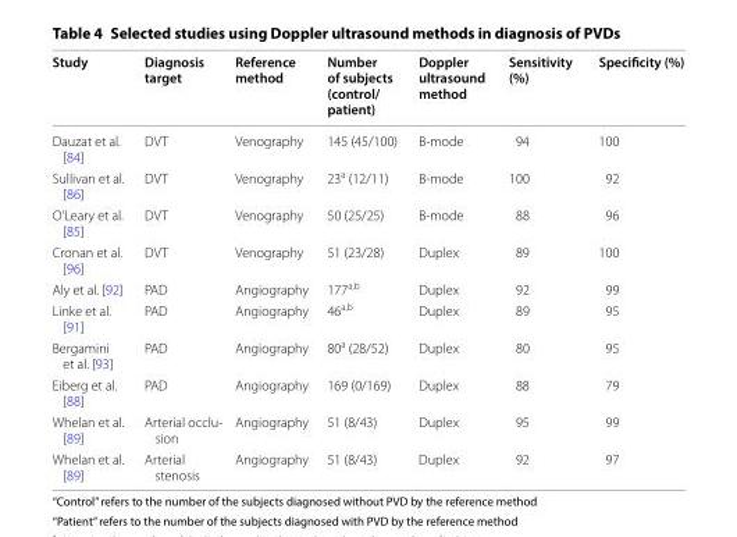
<table><thead><tr><td>Study</td><td>Diagnosis target</td><td>Reference method</td><td>Number of subjects (control/ patient)</td><td>Doppler ultrasound method</td><td>Sensitivity (%)</td><td>Specificity (%)</td></tr></thead><tbody><tr><td>Dauzat et al. [84]</td><td>DVT</td><td>Venography</td><td>145 (45/100)</td><td>B-mode</td><td>94</td><td>100</td></tr><tr><td>Sullivan et al. [86]</td><td>DVT</td><td>Venography</td><td>23<sup>a</sup> (12/11)</td><td>B-mode</td><td>100</td><td>92</td></tr><tr><td>O’Leary et al. [85]</td><td>DVT</td><td>Venography</td><td>50 (25/25)</td><td>B-mode</td><td>88</td><td>96</td></tr><tr><td>Cronan et al. [96]</td><td>DVT</td><td>Venography</td><td>51 (23/28)</td><td>Duplex</td><td>89</td><td>100</td></tr><tr><td>Aly et al. [92]</td><td>PAD</td><td>Angiography</td><td>177<sup>a,b</sup></td><td>Duplex</td><td>92</td><td>99</td></tr><tr><td>Linke et al. [91]</td><td>PAD</td><td>Angiography</td><td>46<sup>a,b</sup></td><td>Duplex</td><td>89</td><td>95</td></tr><tr><td>Bergamini et al. [93]</td><td>PAD</td><td>Angiography</td><td>80<sup>a</sup> (28/52)</td><td>Duplex</td><td>80</td><td>95</td></tr><tr><td>Eiberg et al. [88]</td><td>PAD</td><td>Angiography</td><td>169 (0/169)</td><td>Duplex</td><td>88</td><td>79</td></tr><tr><td>Whelan et al. [89]</td><td>Arterial occlu- sion</td><td>Angiography</td><td>51 (8/43)</td><td>Duplex</td><td>95</td><td>99</td></tr><tr><td>Whelan et al. [89]</td><td>Arterial stenosis</td><td>Angiography</td><td>51 (8/43)</td><td>Duplex</td><td>92</td><td>97</td></tr></tbody></table>